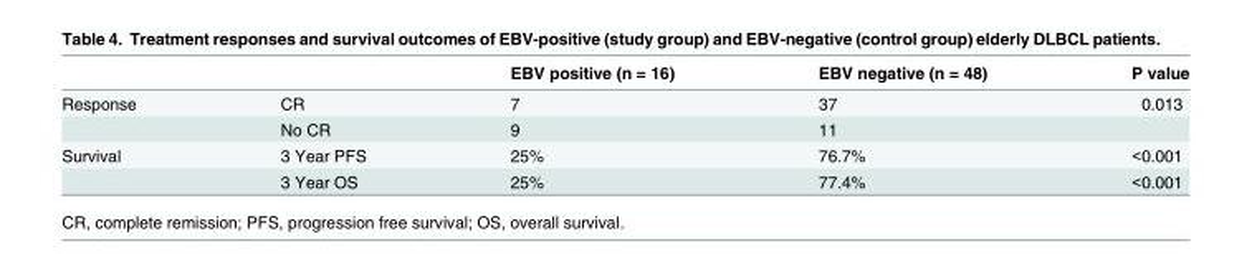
<table><thead><tr><td></td><td></td><td>EBV positive (n = 16)</td><td>EBV negative (n = 48)</td><td>P value</td></tr></thead><tbody><tr><td rowspan="2">Response</td><td>CR</td><td>7</td><td>37</td><td>0.013</td></tr><tr><td>No CR</td><td>9</td><td>11</td><td></td></tr><tr><td rowspan="2">Survival</td><td>3 Year PFS</td><td>25%</td><td>76.7%</td><td>&lt;0.001</td></tr><tr><td>3 Year OS</td><td>25%</td><td>77.4%</td><td>&lt;0.001</td></tr></tbody></table>